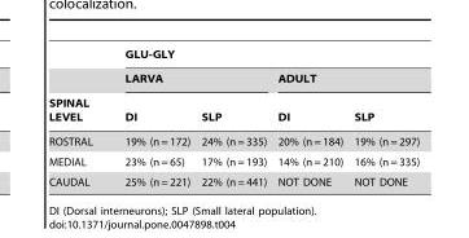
<table><thead><tr><td rowspan="3">SPINAL LEVEL</td><td colspan="4">GLU-GLY</td></tr><tr><td colspan="2">LARVA</td><td colspan="2">ADULT</td></tr><tr><td>DI</td><td>SLP</td><td>DI</td><td>SLP</td></tr></thead><tbody><tr><td>ROSTRAL</td><td>19% (n = 172)</td><td>24% (n = 335)</td><td>20% (n = 184)</td><td>19% (n = 297)</td></tr><tr><td>MEDIAL</td><td>23% (n = 65)</td><td>17% (n = 193)</td><td>14% (n = 210)</td><td>16% (n = 335)</td></tr><tr><td>CAUDAL</td><td>25% (n = 221)</td><td>22% (n = 441)</td><td>NOT DONE</td><td>NOT DONE</td></tr></tbody></table>